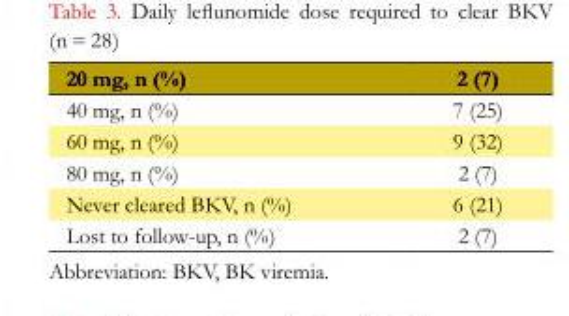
<table><tbody><tr><td>20 mg, n (%)</td><td>2 (7)</td></tr><tr><td>40 mg, n (%)</td><td>7 (25)</td></tr><tr><td>60 mg, n (%)</td><td>9 (32)</td></tr><tr><td>80 mg, n (%)</td><td>2 (7)</td></tr><tr><td>Never cleared BKV, n (%)</td><td>6 (21)</td></tr><tr><td>Lost to follow-up, n (%)</td><td>2 (7)</td></tr></tbody></table>